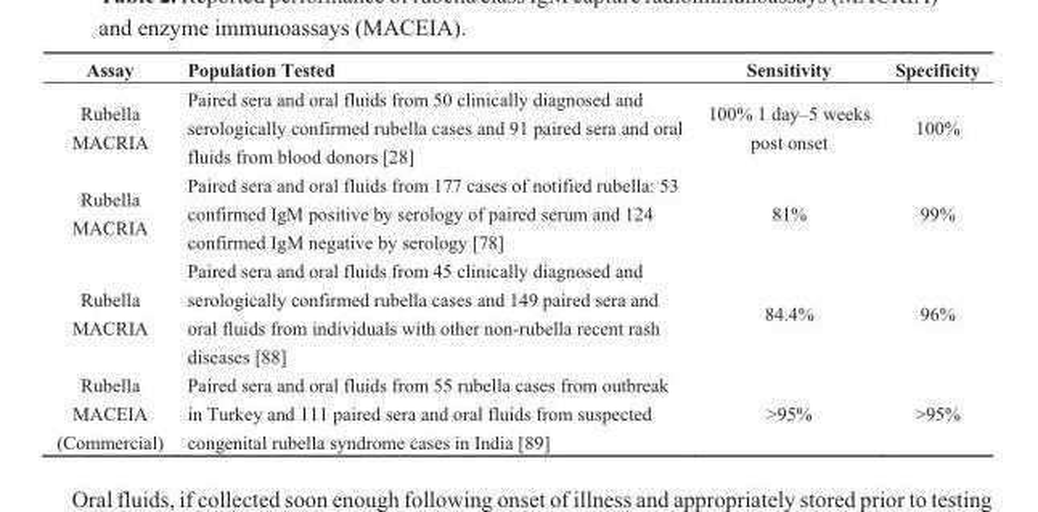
<table><thead><tr><td>Assay</td><td>Population Tested</td><td>Sensitivity</td><td>Specificity</td></tr></thead><tbody><tr><td>Rubella MACRIA</td><td>Paired sera and oral fluids from 50 clinically diagnosed and serologically confirmed rubella cases and 91 paired sera and oral fluids from blood donors [28]</td><td>100% 1 day–5 weeks post onset</td><td>100%</td></tr><tr><td>Rubella MACRIA</td><td>Paired sera and oral fluids from 177 cases of notified rubella: 53 confirmed IgM positive by serology of paired serum and 124 confirmed IgM negative by serology [78]</td><td>81%</td><td>99%</td></tr><tr><td>Rubella MACRIA</td><td>Paired sera and oral fluids from 45 clinically diagnosed and serologically confirmed rubella cases and 149 paired sera and oral fluids from individuals with other non-rubella recent rash diseases [88]</td><td>84.4%</td><td>96%</td></tr><tr><td>Rubella MACEIA (Commercial)</td><td>Paired sera and oral fluids from 55 rubella cases from outbreak in Turkey and 111 paired sera and oral fluids from suspected congenital rubella syndrome cases in India [89]</td><td>&gt;95%</td><td>&gt;95%</td></tr></tbody></table>